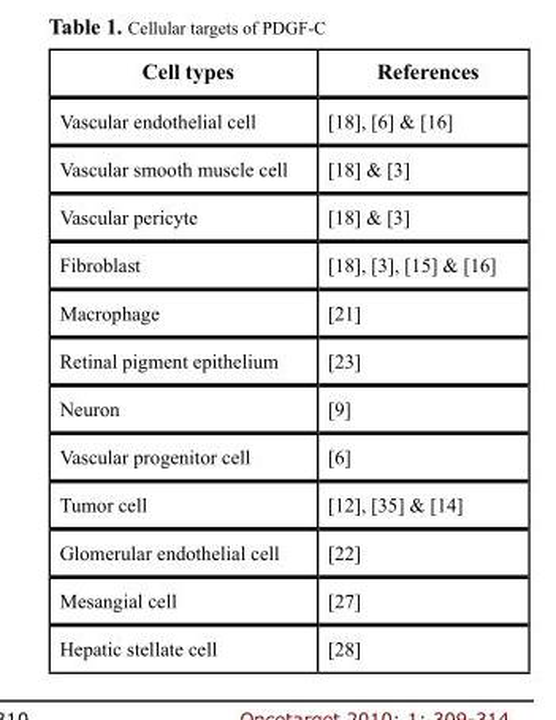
<table><thead><tr><td>cell types</td><td>references</td></tr></thead><tbody><tr><td>Vascular endothelial cell</td><td>[18], [6] &amp; [16]</td></tr><tr><td>Vascular smooth muscle cell</td><td>[18] &amp; [3]</td></tr><tr><td>Vascular pericyte</td><td>[18] &amp; [3]</td></tr><tr><td>Fibroblast</td><td>[18], [3], [15] &amp; [16]</td></tr><tr><td>Macrophage</td><td>[21]</td></tr><tr><td>Retinal pigment epithelium</td><td>[23]</td></tr><tr><td>Neuron</td><td>[9]</td></tr><tr><td>Vascular progenitor cell</td><td>[6]</td></tr><tr><td>Tumor cell</td><td>[12], [35] &amp; [14]</td></tr><tr><td>Glomerular endothelial cell</td><td>[22]</td></tr><tr><td>Mesangial cell</td><td>[27]</td></tr><tr><td>Hepatic stellate cell</td><td>[28]</td></tr></tbody></table>